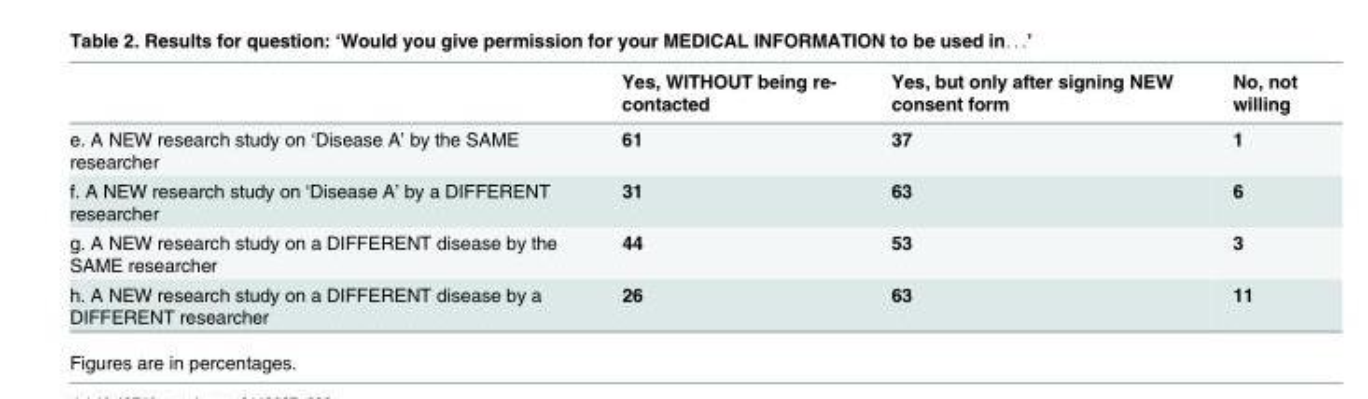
<table><thead><tr><td></td><td>Yes, WITHOUT being re- contacted</td><td>Yes, but only after signing NEW consent form</td><td>No, not willing</td></tr></thead><tbody><tr><td>e. A NEW research study on ‘Disease A’ by the SAME researcher</td><td>61</td><td>37</td><td>1</td></tr><tr><td>f. A NEW research study on ‘Disease A’ by a DIFFERENT researcher</td><td>31</td><td>63</td><td>6</td></tr><tr><td>g. A NEW research study on a DIFFERENT disease by the SAME researcher</td><td>44</td><td>53</td><td>3</td></tr><tr><td>h. A NEW research study on a DIFFERENT disease by a DIFFERENT researcher</td><td>26</td><td>63</td><td>11</td></tr></tbody></table>